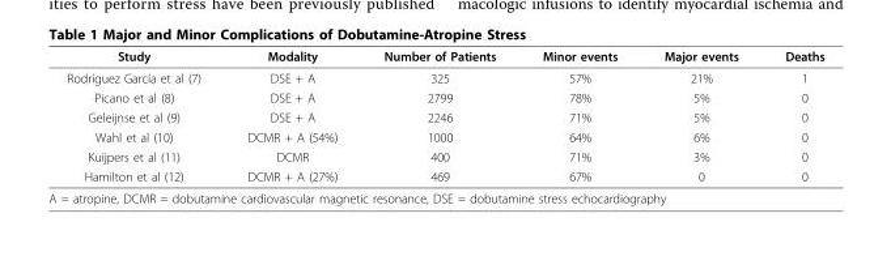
<table><thead><tr><td>Study</td><td>Modality</td><td>Number of Patients</td><td>Minor events</td><td>Major events</td><td>Deaths</td></tr></thead><tbody><tr><td>Rodríguez García et al (7)</td><td>DSE + A</td><td>325</td><td>57%</td><td>21%</td><td>1</td></tr><tr><td>Picano et al (8)</td><td>DSE + A</td><td>2799</td><td>78%</td><td>5%</td><td>0</td></tr><tr><td>Geleijnse et al (9)</td><td>DSE + A</td><td>2246</td><td>71%</td><td>5%</td><td>0</td></tr><tr><td>Wahl et al (10)</td><td>DCMR + A (54%)</td><td>1000</td><td>64%</td><td>6%</td><td>0</td></tr><tr><td>Kuijpers et al (11)</td><td>DCMR</td><td>400</td><td>71%</td><td>3%</td><td>0</td></tr><tr><td>Hamilton et al (12)</td><td>DCMR + A (27%)</td><td>469</td><td>67%</td><td>0</td><td>0</td></tr><tr><td colspan="6">A = atropine, DCMR = dobutamine cardiovascular magnetic resonance, DSE = dobutamine stress echocardiography</td></tr></tbody></table>